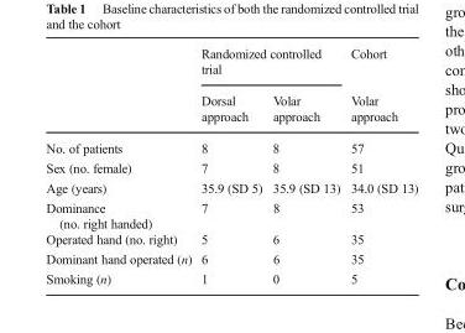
<table><thead><tr><td rowspan="2"></td><td colspan="2">Randomized controlled trial</td><td rowspan="2">Cohort Volar approach</td></tr><tr><td>Dorsal approach</td><td>Volar approach</td></tr></thead><tbody><tr><td>No. of patients</td><td>8</td><td>8</td><td>57</td></tr><tr><td>Sex (no. female)</td><td>7</td><td>8</td><td>51</td></tr><tr><td>Age (years)</td><td>35.9 (SD 5)</td><td>35.9 (SD 13)</td><td>34.0 (SD 13)</td></tr><tr><td>Dominance (no. right handed)</td><td>7</td><td>8</td><td>53</td></tr><tr><td>Operated hand (no. right)</td><td>5</td><td>6</td><td>35</td></tr><tr><td>Dominant hand operated (n)</td><td>6</td><td>6</td><td>35</td></tr><tr><td>Smoking (n)</td><td>1</td><td>0</td><td>5</td></tr></tbody></table>